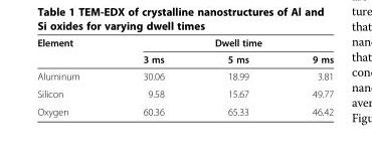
<table><thead><tr><td rowspan="2">Element</td><td colspan="3">Dwell time</td></tr><tr><td>3 ms</td><td>5 ms</td><td>9 ms</td></tr></thead><tbody><tr><td>Aluminum</td><td>30.06</td><td>18.99</td><td>3.81</td></tr><tr><td>Silicon</td><td>9.58</td><td>15.67</td><td>49.77</td></tr><tr><td>Oxygen</td><td>60.36</td><td>65.33</td><td>46.42</td></tr></tbody></table>